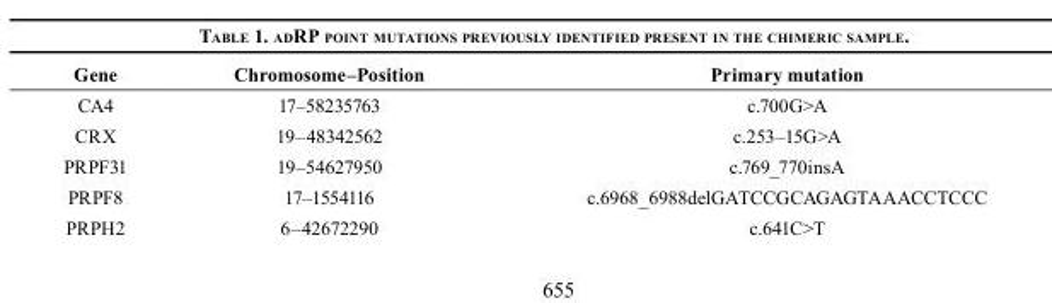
<table><thead><tr><td>Gene</td><td>Chromosome–Position</td><td>Primary mutation</td></tr></thead><tbody><tr><td>CA4</td><td>17–58235763</td><td>c.700G&gt;A</td></tr><tr><td>CRX</td><td>19–48342562</td><td>c.253–15G&gt;A</td></tr><tr><td>PRPF31</td><td>19–54627950</td><td>c.769_770insA</td></tr><tr><td>PRPF8</td><td>17–1554116</td><td>c.6968_6988delGATCCGCAGAGTAAACCTCCC</td></tr><tr><td>PRPH2</td><td>6–42672290</td><td>c.641C&gt;T</td></tr></tbody></table>